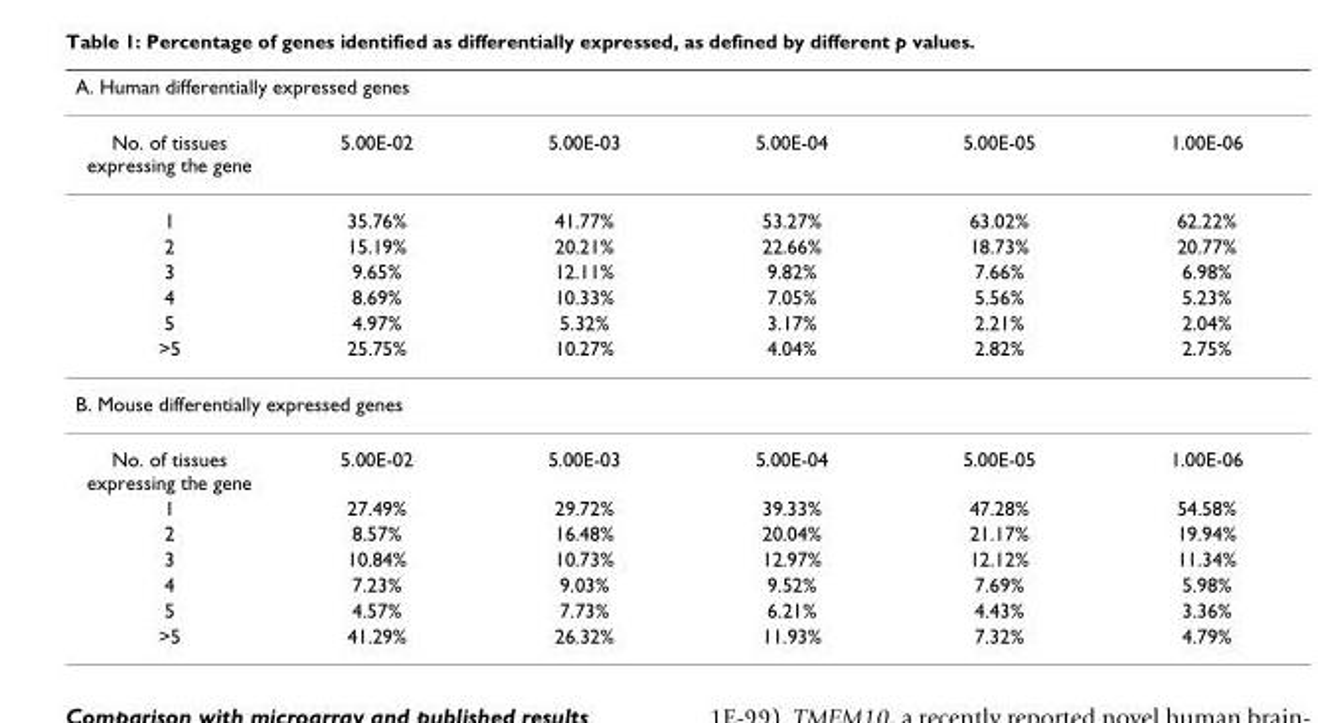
<table><thead><tr><td colspan="6">A. Human differentially expressed genes</td></tr><tr><td>No. of tissues expressing the gene</td><td>5.00E-02</td><td>5.00E-03</td><td>5.00E-04</td><td>5.00E-05</td><td>1.00E-06</td></tr></thead><tbody><tr><td>1</td><td>35.76%</td><td>41.77%</td><td>53.27%</td><td>63.02%</td><td>62.22%</td></tr><tr><td>2</td><td>15.19%</td><td>20.21%</td><td>22.66%</td><td>18.73%</td><td>20.77%</td></tr><tr><td>3</td><td>9.65%</td><td>12.11%</td><td>9.82%</td><td>7.66%</td><td>6.98%</td></tr><tr><td>4</td><td>8.69%</td><td>10.33%</td><td>7.05%</td><td>5.56%</td><td>5.23%</td></tr><tr><td>5</td><td>4.97%</td><td>5.32%</td><td>3.17%</td><td>2.21%</td><td>2.04%</td></tr><tr><td>&gt;5</td><td>25.75%</td><td>10.27%</td><td>4.04%</td><td>2.82%</td><td>2.75%</td></tr><tr><td colspan="6">B. Mouse differentially expressed genes</td></tr><tr><td>No. of tissues expressing the gene</td><td>5.00E-02</td><td>5.00E-03</td><td>5.00E-04</td><td>5.00E-05</td><td>1.00E-06</td></tr><tr><td>1</td><td>27.49%</td><td>29.72%</td><td>39.33%</td><td>47.28%</td><td>54.58%</td></tr><tr><td>2</td><td>8.57%</td><td>16.48%</td><td>20.04%</td><td>21.17%</td><td>19.94%</td></tr><tr><td>3</td><td>10.84%</td><td>10.73%</td><td>12.97%</td><td>12.12%</td><td>11.34%</td></tr><tr><td>4</td><td>7.23%</td><td>9.03%</td><td>9.52%</td><td>7.69%</td><td>5.98%</td></tr><tr><td>5</td><td>4.57%</td><td>7.73%</td><td>6.21%</td><td>4.43%</td><td>3.36%</td></tr><tr><td>&gt;5</td><td>41.29%</td><td>26.32%</td><td>11.93%</td><td>7.32%</td><td>4.79%</td></tr></tbody></table>